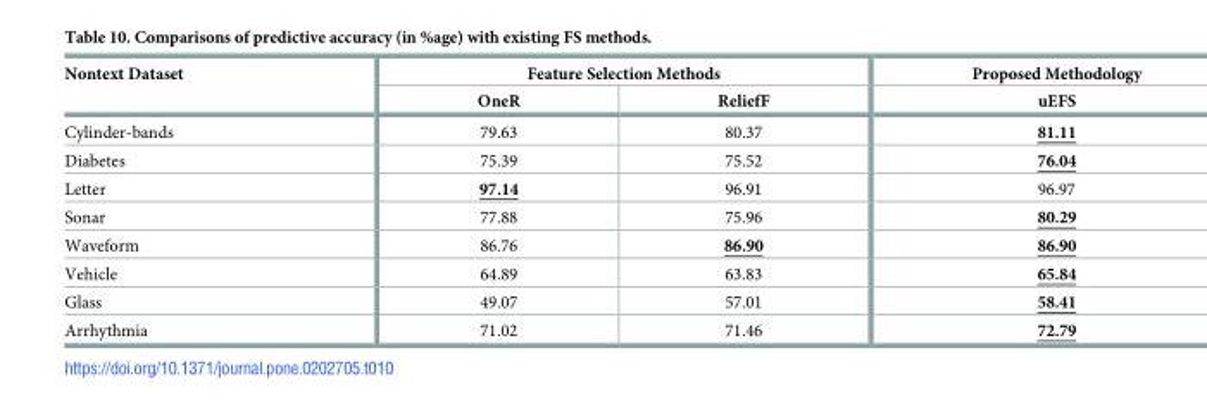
<table><thead><tr><td rowspan="2">Nontext Dataset</td><td colspan="2">Feature Selection Methods</td><td rowspan="2">Proposed Methodology uEFS</td></tr><tr><td>OneR</td><td>ReliefF</td></tr></thead><tbody><tr><td>Cylinder-bands</td><td>79.63</td><td>80.37</td><td>81.11</td></tr><tr><td>Diabetes</td><td>75.39</td><td>75.52</td><td>76.04</td></tr><tr><td>Letter</td><td>97.14</td><td>96.91</td><td>96.97</td></tr><tr><td>Sonar</td><td>77.88</td><td>75.96</td><td>80.29</td></tr><tr><td>Waveform</td><td>86.76</td><td>86.90</td><td>86.90</td></tr><tr><td>Vehicle</td><td>64.89</td><td>63.83</td><td>65.84</td></tr><tr><td>Glass</td><td>49.07</td><td>57.01</td><td>58.41</td></tr><tr><td>Arrhythmia</td><td>71.02</td><td>71.46</td><td>72.79</td></tr></tbody></table>